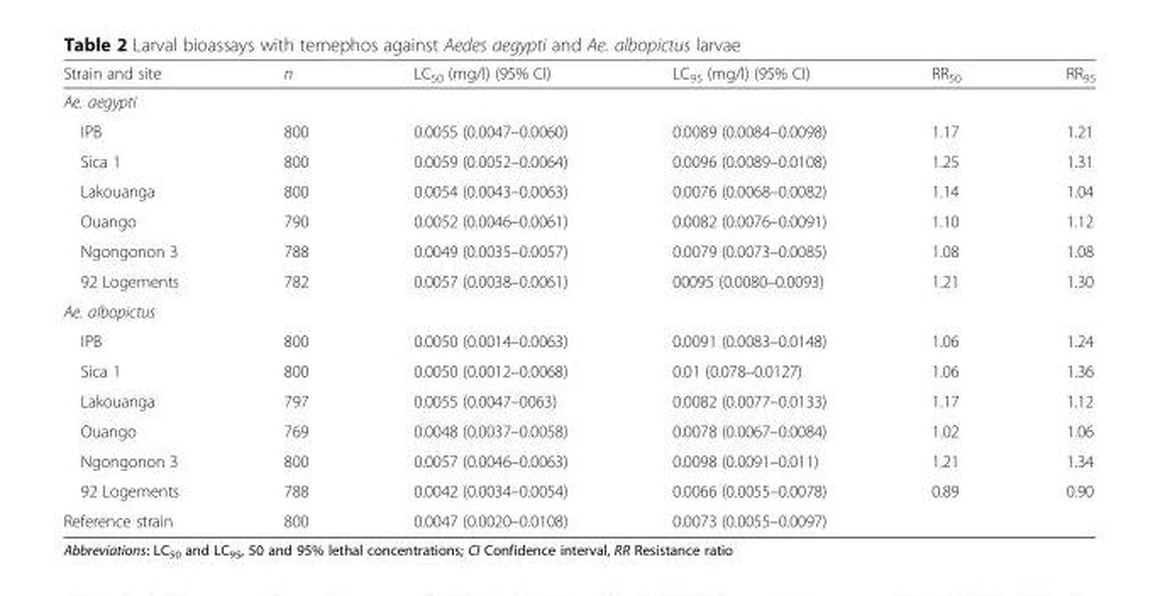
<table><thead><tr><td>Strain and site</td><td>n</td><td>LC<sub>50</sub> (mg/l) (95% CI)</td><td>LC<sub>95</sub> (mg/l) (95% CI)</td><td>RR<sub>50</sub></td><td>RR<sub>95</sub></td></tr></thead><tbody><tr><td colspan="6">Ae. aegypti</td></tr><tr><td>IPB</td><td>800</td><td>0.0055 (0.0047–0.0060)</td><td>0.0089 (0.0084–0.0098)</td><td>1.17</td><td>1.21</td></tr><tr><td>Sica 1</td><td>800</td><td>0.0059 (0.0052–0.0064)</td><td>0.0096 (0.0089–0.0108)</td><td>1.25</td><td>1.31</td></tr><tr><td>Lakouanga</td><td>800</td><td>0.0054 (0.0043–0.0063)</td><td>0.0076 (0.0068–0.0082)</td><td>1.14</td><td>1.04</td></tr><tr><td>Ouango</td><td>790</td><td>0.0052 (0.0046–0.0061)</td><td>0.0082 (0.0076–0.0091)</td><td>1.10</td><td>1.12</td></tr><tr><td>Ngongonon 3</td><td>788</td><td>0.0049 (0.0035–0.0057)</td><td>0.0079 (0.0073–0.0085)</td><td>1.08</td><td>1.08</td></tr><tr><td>92 Logements</td><td>782</td><td>0.0057 (0.0038–0.0061)</td><td>00095 (0.0080–0.0093)</td><td>1.21</td><td>1.30</td></tr><tr><td colspan="6">Ae. albopictus</td></tr><tr><td>IPB</td><td>800</td><td>0.0050 (0.0014–0.0063)</td><td>0.0091 (0.0083–0.0148)</td><td>1.06</td><td>1.24</td></tr><tr><td>Sica 1</td><td>800</td><td>0.0050 (0.0012–0.0068)</td><td>0.01 (0.078–0.0127)</td><td>1.06</td><td>1.36</td></tr><tr><td>Lakouanga</td><td>797</td><td>0.0055 (0.0047–0063)</td><td>0.0082 (0.0077–0.0133)</td><td>1.17</td><td>1.12</td></tr><tr><td>Ouango</td><td>769</td><td>0.0048 (0.0037–0.0058)</td><td>0.0078 (0.0067–0.0084)</td><td>1.02</td><td>1.06</td></tr><tr><td>Ngongonon 3</td><td>800</td><td>0.0057 (0.0046–0.0063)</td><td>0.0098 (0.0091–0.011)</td><td>1.21</td><td>1.34</td></tr><tr><td>92 Logements</td><td>788</td><td>0.0042 (0.0034–0.0054)</td><td>0.0066 (0.0055–0.0078)</td><td>0.89</td><td>0.90</td></tr><tr><td>Reference strain</td><td>800</td><td>0.0047 (0.0020–0.0108)</td><td>0.0073 (0.0055–0.0097)</td><td></td><td></td></tr></tbody></table>